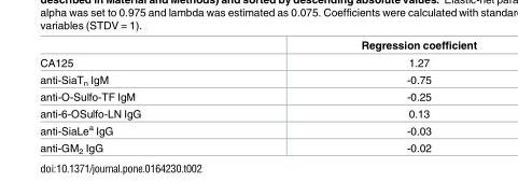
<table><thead><tr><td></td><td>Regression coefficient</td></tr></thead><tbody><tr><td>CA125</td><td>1.27</td></tr><tr><td>anti-SiaT<sub>n</sub> IgM</td><td>-0.75</td></tr><tr><td>anti-O-Sulfo-TF IgM</td><td>-0.25</td></tr><tr><td>anti-6-OSulfo-LN IgG</td><td>0.13</td></tr><tr><td>anti-SiaLe<sup>a</sup> IgG</td><td>-0.03</td></tr><tr><td>anti-GM<sub>2</sub> IgG</td><td>-0.02</td></tr></tbody></table>